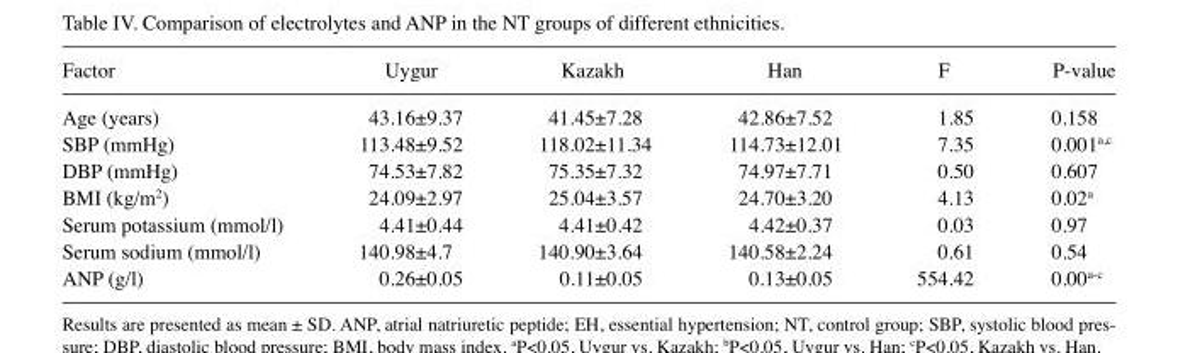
<table><thead><tr><td>Factor</td><td>Uygur</td><td>Kazakh</td><td>Han</td><td>F</td><td>P-value</td></tr></thead><tbody><tr><td>Age (years)</td><td>43.16±9.37</td><td>41.45±7.28</td><td>42.86±7.52</td><td>1.85</td><td>0.158</td></tr><tr><td>SBP (mmHg)</td><td>113.48±9.52</td><td>118.02±11.34</td><td>114.73±12.01</td><td>7.35</td><td>0.001<sup>a,c</sup></td></tr><tr><td>DBP (mmHg)</td><td>74.53±7.82</td><td>75.35±7.32</td><td>74.97±7.71</td><td>0.50</td><td>0.607</td></tr><tr><td>BMI (kg/m<sup>2</sup>)</td><td>24.09±2.97</td><td>25.04±3.57</td><td>24.70±3.20</td><td>4.13</td><td>0.02<sup>a</sup></td></tr><tr><td>Serum potassium (mmol/l)</td><td>4.41±0.44</td><td>4.41±0.42</td><td>4.42±0.37</td><td>0.03</td><td>0.97</td></tr><tr><td>Serum sodium (mmol/l)</td><td>140.98±4.7</td><td>140.90±3.64</td><td>140.58±2.24</td><td>0.61</td><td>0.54</td></tr><tr><td>ANP (g/l)</td><td>0.26±0.05</td><td>0.11±0.05</td><td>0.13±0.05</td><td>554.42</td><td>0.00<sup>a-c</sup></td></tr></tbody></table>